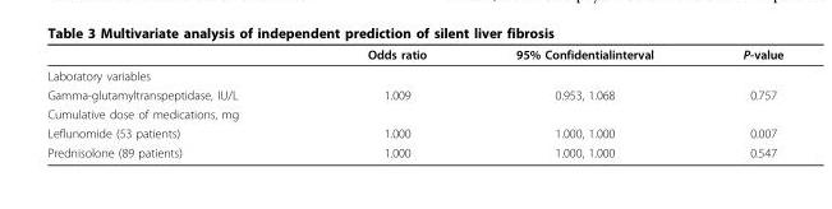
<table><thead><tr><td></td><td>Odds ratio</td><td>95% Confidentialinterval</td><td>P-value</td></tr></thead><tbody><tr><td colspan="4">Laboratory variables</td></tr><tr><td>Gamma-glutamyltranspeptidase, IU/L</td><td>1.009</td><td>0.953, 1.068</td><td>0.757</td></tr><tr><td colspan="4">Cumulative dose of medications, mg</td></tr><tr><td>Leflunomide (53 patients)</td><td>1.000</td><td>1.000, 1.000</td><td>0.007</td></tr><tr><td>Prednisolone (89 patients)</td><td>1.000</td><td>1.000, 1.000</td><td>0.547</td></tr></tbody></table>